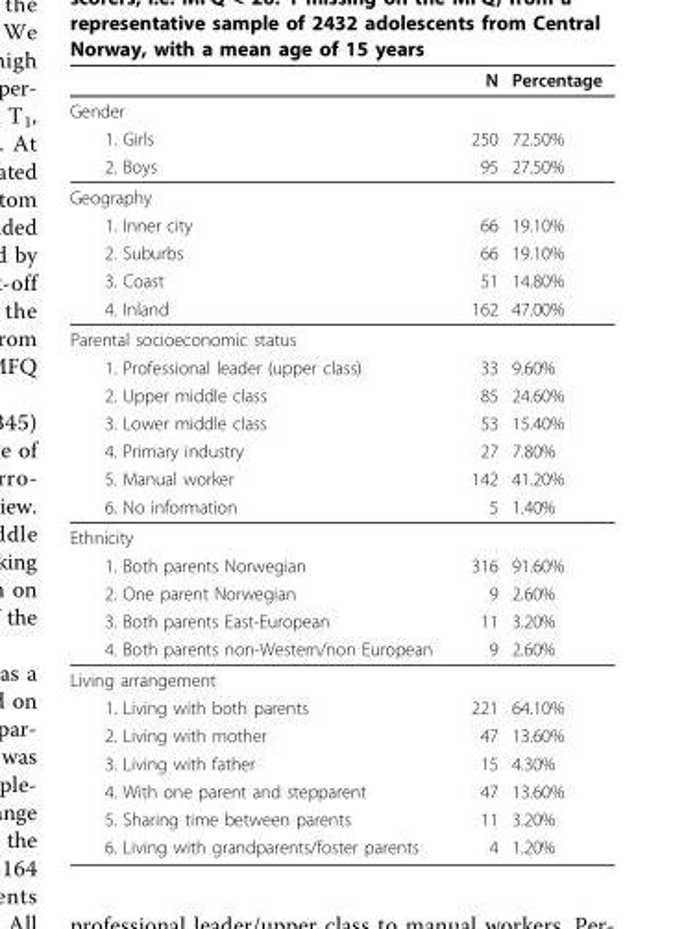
<table><thead><tr><td></td><td>N</td><td>Percentage</td></tr></thead><tbody><tr><td colspan="3">Gender</td></tr><tr><td>1. Girls</td><td>250</td><td>72.50%</td></tr><tr><td>2. Boys</td><td>95</td><td>27.50%</td></tr><tr><td colspan="3">Geography</td></tr><tr><td>1. Inner city</td><td>66</td><td>19.10%</td></tr><tr><td>2. Suburbs</td><td>66</td><td>19.10%</td></tr><tr><td>3. Coast</td><td>51</td><td>14.80%</td></tr><tr><td>4. Inland</td><td>162</td><td>47.00%</td></tr><tr><td colspan="3">Parental socioeconomic status</td></tr><tr><td>1. Professional leader (upper class)</td><td>33</td><td>9.60%</td></tr><tr><td>2. Upper middle class</td><td>85</td><td>24.60%</td></tr><tr><td>3. Lower middle class</td><td>53</td><td>15.40%</td></tr><tr><td>4. Primary industry</td><td>27</td><td>7.80%</td></tr><tr><td>5. Manual worker</td><td>142</td><td>41.20%</td></tr><tr><td>6. No information</td><td>5</td><td>1.40%</td></tr><tr><td colspan="3">Ethnicity</td></tr><tr><td>1. Both parents Norwegian</td><td>316</td><td>91.60%</td></tr><tr><td>2. One parent Norwegian</td><td>9</td><td>2.60%</td></tr><tr><td>3. Both parents East-European</td><td>11</td><td>3.20%</td></tr><tr><td>4. Both parents non-Western/non European</td><td>9</td><td>2.60%</td></tr><tr><td colspan="3">Living arrangement</td></tr><tr><td>1. Living with both parents</td><td>221</td><td>64.10%</td></tr><tr><td>2. Living with mother</td><td>47</td><td>13.60%</td></tr><tr><td>3. Living with father</td><td>15</td><td>4.30%</td></tr><tr><td>4. With one parent and stepparent</td><td>47</td><td>13.60%</td></tr><tr><td>5. Sharing time between parents</td><td>11</td><td>3.20%</td></tr><tr><td>6. Living with grandparents/foster parents</td><td>4</td><td>1.20%</td></tr></tbody></table>